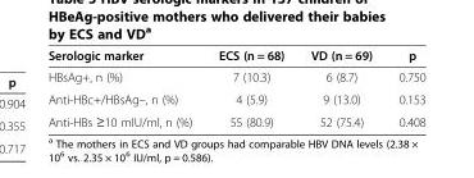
<table><thead><tr><td>Serologic marker</td><td>ECS (n = 68)</td><td>VD (n = 69)</td><td>p</td></tr></thead><tbody><tr><td>HBsAg+, n (%)</td><td>7 (10.3)</td><td>6 (8.7)</td><td>0.750</td></tr><tr><td>Anti-HBc+/HBsAg–, n (%)</td><td>4 (5.9)</td><td>9 (13.0)</td><td>0.153</td></tr><tr><td>Anti-HBs ≥10 mIU/ml, n (%)</td><td>55 (80.9)</td><td>52 (75.4)</td><td>0.408</td></tr></tbody></table>